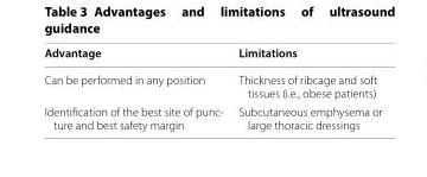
<table><thead><tr><td>Advantage</td><td>Limitations</td></tr></thead><tbody><tr><td>Can be performed in any position</td><td>Thickness of ribcage and soft tissues (i.e., obese patients)</td></tr><tr><td>Identification of the best site of punc- ture and best safety margin</td><td>Subcutaneous emphysema or large thoracic dressings</td></tr></tbody></table>